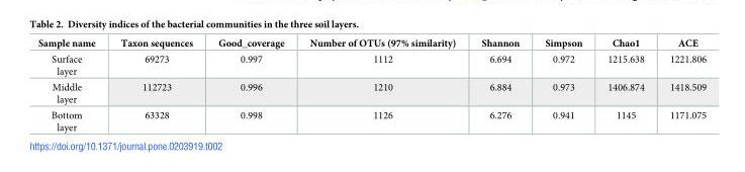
<table><thead><tr><td>Sample name</td><td>Taxon sequences</td><td>Good_coverage</td><td>Number of OTUs (97% similarity)</td><td>Shannon</td><td>Simpson</td><td>Chao1</td><td>ACE</td></tr></thead><tbody><tr><td>Surface layer</td><td>69273</td><td>0.997</td><td>1112</td><td>6.694</td><td>0.972</td><td>1215.638</td><td>1221.806</td></tr><tr><td>Middle layer</td><td>112723</td><td>0.996</td><td>1210</td><td>6.884</td><td>0.973</td><td>1406.874</td><td>1418.509</td></tr><tr><td>Bottom layer</td><td>63328</td><td>0.998</td><td>1126</td><td>6.276</td><td>0.941</td><td>1145</td><td>1171.075</td></tr></tbody></table>